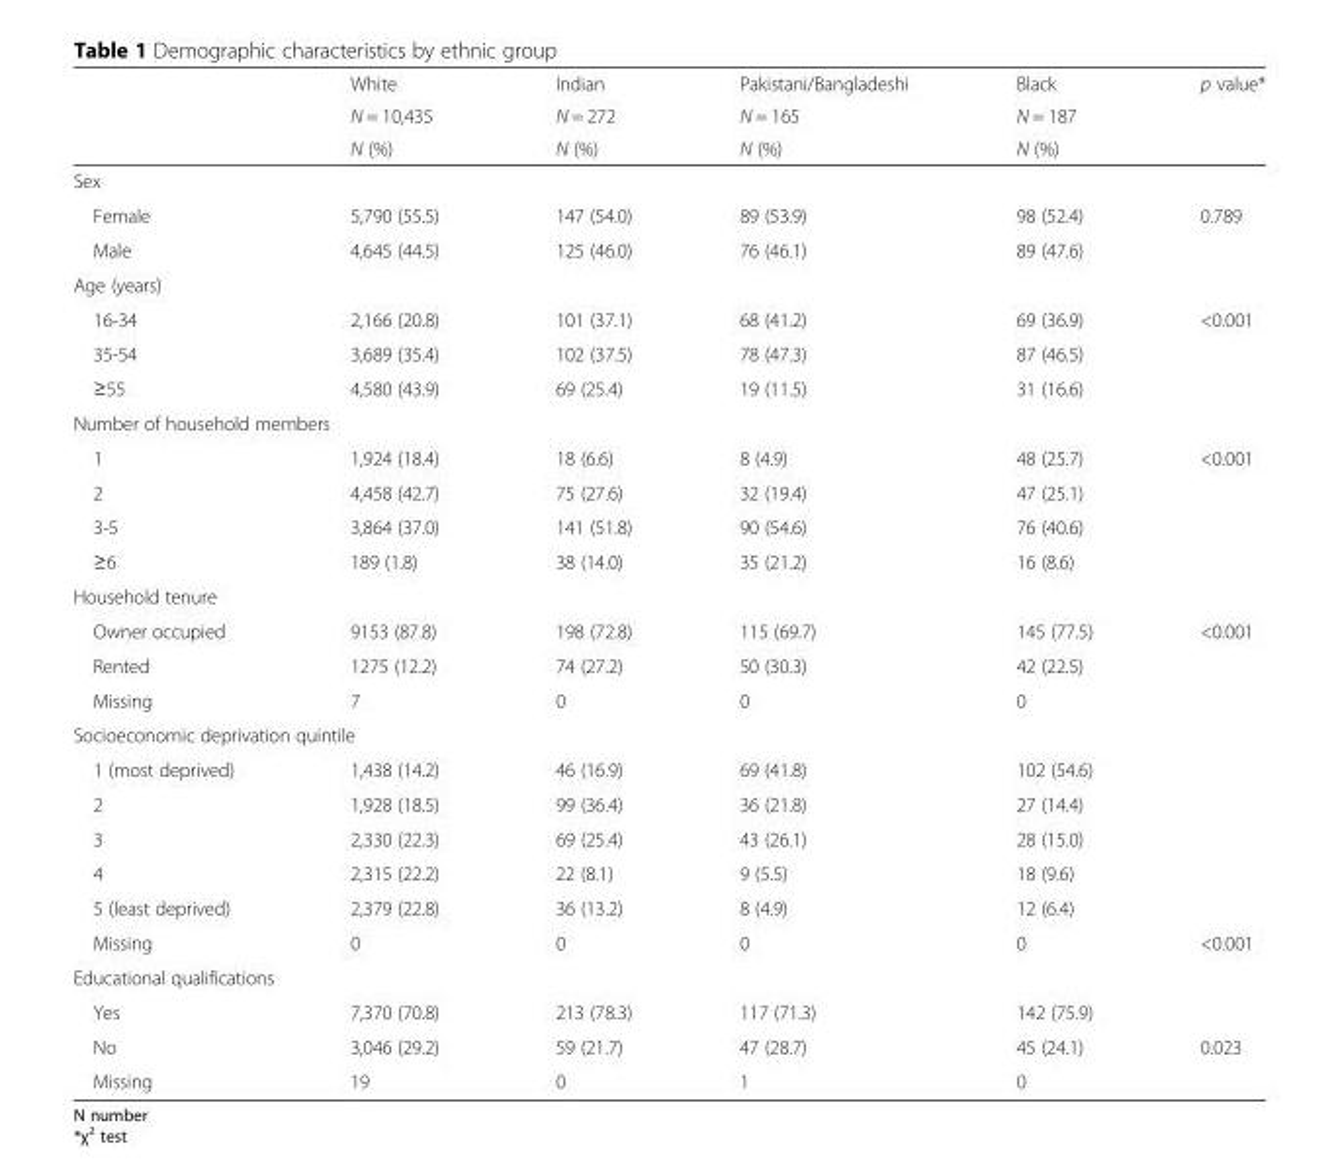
<table><thead><tr><td rowspan="3"></td><td rowspan="3">White N = 10,435 N (%)</td><td rowspan="3">Indian N = 272 N (%)</td><td rowspan="3">Pakistani/Bangladeshi N = 165 N (%)</td><td rowspan="3">Black N = 187 N (%)</td><td rowspan="3">p value*</td></tr><tr></tr><tr></tr></thead><tbody><tr><td colspan="6">Sex</td></tr><tr><td>Female</td><td>5,790 (55.5)</td><td>147 (54.0)</td><td>89 (53.9)</td><td>98 (52.4)</td><td>0.789</td></tr><tr><td>Male</td><td>4,645 (44.5)</td><td>125 (46.0)</td><td>76 (46.1)</td><td>89 (47.6)</td><td></td></tr><tr><td colspan="6">Age (years)</td></tr><tr><td>16-34</td><td>2,166 (20.8)</td><td>101 (37.1)</td><td>68 (41.2)</td><td>69 (36.9)</td><td>&lt;0.001</td></tr><tr><td>35-54</td><td>3,689 (35.4)</td><td>102 (37.5)</td><td>78 (47.3)</td><td>87 (46.5)</td><td></td></tr><tr><td>≥55</td><td>4,580 (43.9)</td><td>69 (25.4)</td><td>19 (11.5)</td><td>31 (16.6)</td><td></td></tr><tr><td colspan="6">Number of household members</td></tr><tr><td>1</td><td>1,924 (18.4)</td><td>18 (6.6)</td><td>8 (4.9)</td><td>48 (25.7)</td><td>&lt;0.001</td></tr><tr><td>2</td><td>4,458 (42.7)</td><td>75 (27.6)</td><td>32 (19.4)</td><td>47 (25.1)</td><td></td></tr><tr><td>3-5</td><td>3,864 (37.0)</td><td>141 (51.8)</td><td>90 (54.6)</td><td>76 (40.6)</td><td></td></tr><tr><td>≥6</td><td>189 (1.8)</td><td>38 (14.0)</td><td>35 (21.2)</td><td>16 (8.6)</td><td></td></tr><tr><td colspan="6">Household tenure</td></tr><tr><td>Owner occupied</td><td>9153 (87.8)</td><td>198 (72.8)</td><td>115 (69.7)</td><td>145 (77.5)</td><td>&lt;0.001</td></tr><tr><td>Rented</td><td>1275 (12.2)</td><td>74 (27.2)</td><td>50 (30.3)</td><td>42 (22.5)</td><td></td></tr><tr><td>Missing</td><td>7</td><td>0</td><td>0</td><td>0</td><td></td></tr><tr><td colspan="6">Socioeconomic deprivation quintile</td></tr><tr><td>1 (most deprived)</td><td>1,438 (14.2)</td><td>46 (16.9)</td><td>69 (41.8)</td><td>102 (54.6)</td><td></td></tr><tr><td>2</td><td>1,928 (18.5)</td><td>99 (36.4)</td><td>36 (21.8)</td><td>27 (14.4)</td><td></td></tr><tr><td>3</td><td>2,330 (22.3)</td><td>69 (25.4)</td><td>43 (26.1)</td><td>28 (15.0)</td><td></td></tr><tr><td>4</td><td>2,315 (22.2)</td><td>22 (8.1)</td><td>9 (5.5)</td><td>18 (9.6)</td><td></td></tr><tr><td>5 (least deprived)</td><td>2,379 (22.8)</td><td>36 (13.2)</td><td>8 (4.9)</td><td>12 (6.4)</td><td></td></tr><tr><td>Missing</td><td>0</td><td>0</td><td>0</td><td>0</td><td>&lt;0.001</td></tr><tr><td colspan="6">Educational qualifications</td></tr><tr><td>Yes</td><td>7,370 (70.8)</td><td>213 (78.3)</td><td>117 (71.3)</td><td>142 (75.9)</td><td></td></tr><tr><td>No</td><td>3,046 (29.2)</td><td>59 (21.7)</td><td>47 (28.7)</td><td>45 (24.1)</td><td>0.023</td></tr><tr><td>Missing</td><td>19</td><td>0</td><td>1</td><td>0</td><td></td></tr></tbody></table>